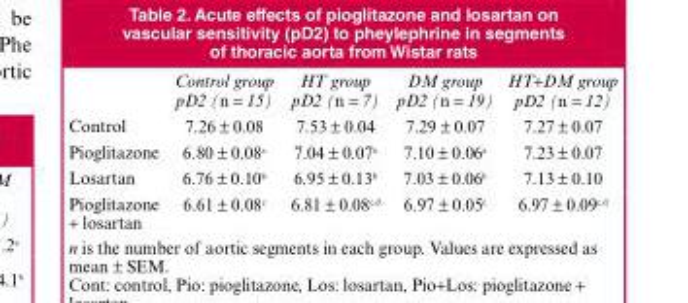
<table><thead><tr><td></td><td>Control group pD2 (n = 15)</td><td>HT group pD2 (n = 7)</td><td>DM group pD2 (n = 19)</td><td>HT+DM group pD2 (n = 12)</td></tr></thead><tbody><tr><td>Control</td><td>7.26 ± 0.08</td><td>7.53 ± 0.04</td><td>7.29 ± 0.07</td><td>7.27 ± 0.07</td></tr><tr><td>Pioglitazone</td><td>6.80 ± 0.08<sup>a</sup></td><td>7.04 ± 0.07<sup>a</sup></td><td>7.10 ± 0.06<sup>a</sup></td><td>7.23 ± 0.07</td></tr><tr><td>Losartan</td><td>6.76 ± 0.10<sup>b</sup></td><td>6.95 ± 0.13<sup>b</sup></td><td>7.03 ± 0.06<sup>b</sup></td><td>7.13 ± 0.10</td></tr><tr><td>Pioglitazone + losartan</td><td>6.61 ± 0.08<sup>c</sup></td><td>6.81 ± 0.08<sup>c</sup>,<sup>d</sup></td><td>6.97 ± 0.05<sup>c</sup></td><td>6.97 ± 0.09<sup>c</sup>,<sup>d</sup></td></tr></tbody></table>